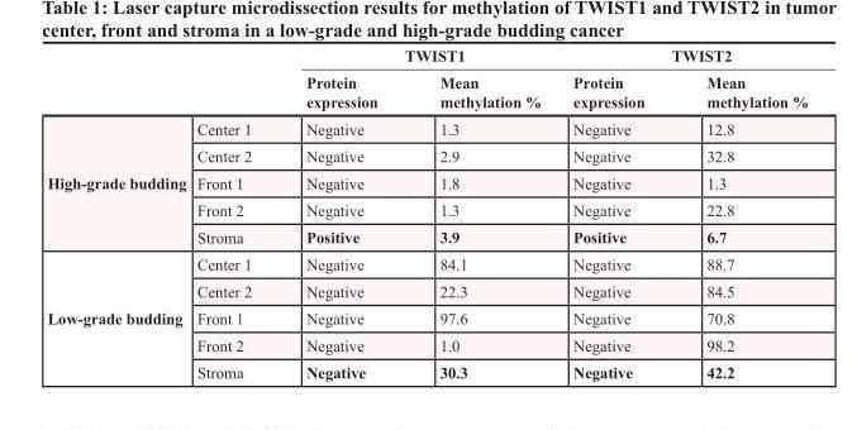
<table><thead><tr><td rowspan="2"></td><td rowspan="2"></td><td colspan="2">TWIST1</td><td colspan="2">TWIST2</td></tr><tr><td>Protein expression</td><td>Mean methylation %</td><td>Protein expression</td><td>Mean methylation %</td></tr></thead><tbody><tr><td rowspan="5">High-grade budding</td><td>Center 1</td><td>Negative</td><td>1.3</td><td>Negative</td><td>12.8</td></tr><tr><td>Center 2</td><td>Negative</td><td>2.9</td><td>Negative</td><td>32.8</td></tr><tr><td>Front 1</td><td>Negative</td><td>1.8</td><td>Negative</td><td>1.3</td></tr><tr><td>Front 2</td><td>Negative</td><td>1.3</td><td>Negative</td><td>22.8</td></tr><tr><td>Stroma</td><td>Positive</td><td>3.9</td><td>Positive</td><td>6.7</td></tr><tr><td rowspan="5">Low-grade budding</td><td>Center 1</td><td>Negative</td><td>84.1</td><td>Negative</td><td>88.7</td></tr><tr><td>Center 2</td><td>Negative</td><td>22.3</td><td>Negative</td><td>84.5</td></tr><tr><td>Front 1</td><td>Negative</td><td>97.6</td><td>Negative</td><td>70.8</td></tr><tr><td>Front 2</td><td>Negative</td><td>1.0</td><td>Negative</td><td>98.2</td></tr><tr><td>Stroma</td><td>Negative</td><td>30.3</td><td>Negative</td><td>42.2</td></tr></tbody></table>